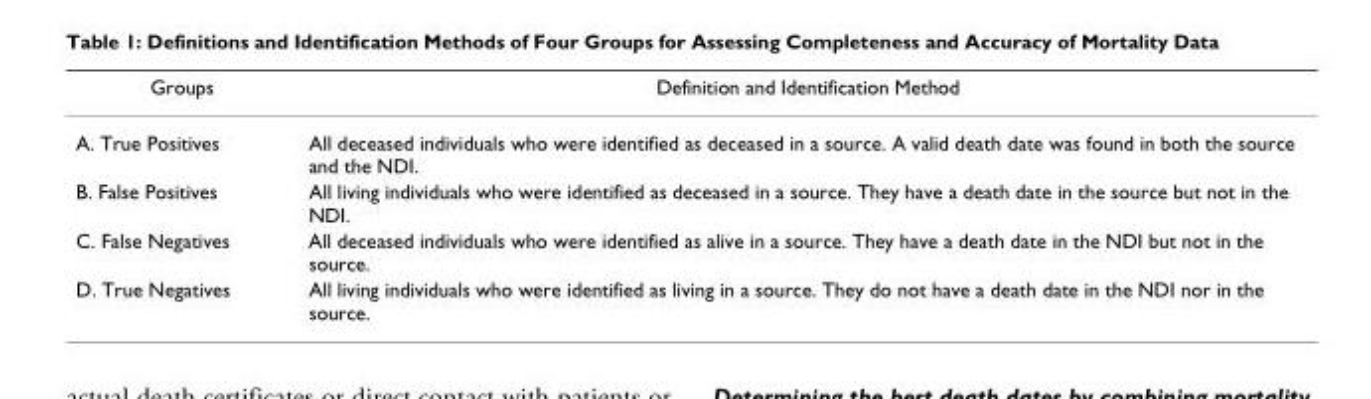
<table><thead><tr><td>Groups</td><td>Definition and Identification Method</td></tr></thead><tbody><tr><td>A. True Positives</td><td>All deceased individuals who were identified as deceased in a source. A valid death date was found in both the source and the NDI.</td></tr><tr><td>B. False Positives</td><td>All living individuals who were identified as deceased in a source. They have a death date in the source but not in the NDI.</td></tr><tr><td>C. False Negatives</td><td>All deceased individuals who were identified as alive in a source. They have a death date in the NDI but not in the source.</td></tr><tr><td>D. True Negatives</td><td>All living individuals who were identified as living in a source. They do not have a death date in the NDI nor in the source.</td></tr></tbody></table>